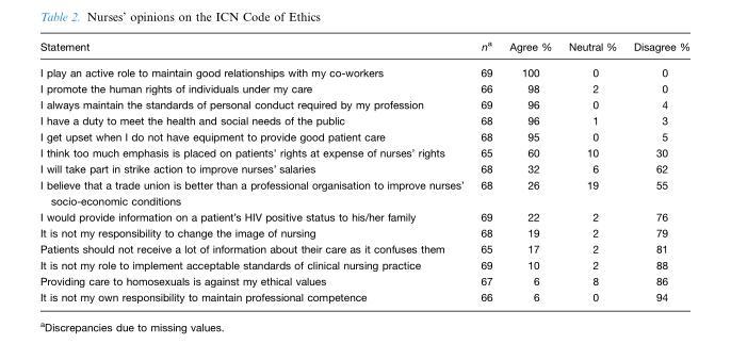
<table><thead><tr><td>Statement</td><td>n<sup>a</sup></td><td>Agree %</td><td>Neutral %</td><td>Disagree %</td></tr></thead><tbody><tr><td>I play an active role to maintain good relationships with my co-workers</td><td>69</td><td>100</td><td>0</td><td>0</td></tr><tr><td>I promote the human rights of individuals under my care</td><td>66</td><td>98</td><td>2</td><td>0</td></tr><tr><td>I always maintain the standards of personal conduct required by my profession</td><td>69</td><td>96</td><td>0</td><td>4</td></tr><tr><td>I have a duty to meet the health and social needs of the public</td><td>68</td><td>96</td><td>1</td><td>3</td></tr><tr><td>I get upset when I do not have equipment to provide good patient care</td><td>68</td><td>95</td><td>0</td><td>5</td></tr><tr><td>I think too much emphasis is placed on patients’ rights at expense of nurses’ rights</td><td>65</td><td>60</td><td>10</td><td>30</td></tr><tr><td>I will take part in strike action to improve nurses’ salaries</td><td>68</td><td>32</td><td>6</td><td>62</td></tr><tr><td>I believe that a trade union is better than a professional organisation to improve nurses’ socio-economic conditions</td><td>68</td><td>26</td><td>19</td><td>55</td></tr><tr><td>I would provide information on a patient’s HIV positive status to his/her family</td><td>69</td><td>22</td><td>2</td><td>76</td></tr><tr><td>It is not my responsibility to change the image of nursing</td><td>68</td><td>19</td><td>2</td><td>79</td></tr><tr><td>Patients should not receive a lot of information about their care as it confuses them</td><td>65</td><td>17</td><td>2</td><td>81</td></tr><tr><td>It is not my role to implement acceptable standards of clinical nursing practice</td><td>69</td><td>10</td><td>2</td><td>88</td></tr><tr><td>Providing care to homosexuals is against my ethical values</td><td>67</td><td>6</td><td>8</td><td>86</td></tr><tr><td>It is not my own responsibility to maintain professional competence</td><td>66</td><td>6</td><td>0</td><td>94</td></tr></tbody></table>